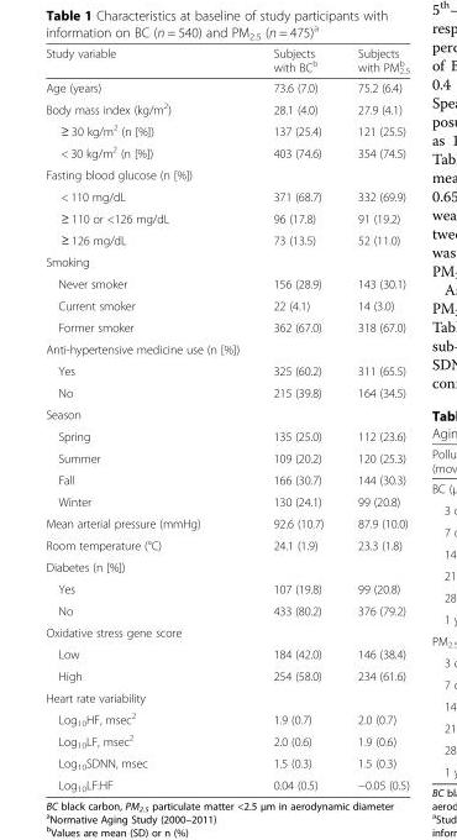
<table><thead><tr><td>Study variable</td><td>Subjects with BC<sup>b</sup></td><td>Subjects with PM<sub>2.5</sub> <sup>b</sup></td></tr></thead><tbody><tr><td>Age (years)</td><td>73.6 (7.0)</td><td>75.2 (6.4)</td></tr><tr><td>Body mass index (kg/m<sup>2</sup>)</td><td>28.1 (4.0)</td><td>27.9 (4.1)</td></tr><tr><td>≥ 30 kg/m<sup>2</sup> (n [%])</td><td>137 (25.4)</td><td>121 (25.5)</td></tr><tr><td>&lt; 30 kg/m<sup>2</sup> (n [%])</td><td>403 (74.6)</td><td>354 (74.5)</td></tr><tr><td colspan="3">Fasting blood glucose (n [%])</td></tr><tr><td>&lt; 110 mg/dL</td><td>371 (68.7)</td><td>332 (69.9)</td></tr><tr><td>≥ 110 or &lt;126 mg/dL</td><td>96 (17.8)</td><td>91 (19.2)</td></tr><tr><td>≥ 126 mg/dL</td><td>73 (13.5)</td><td>52 (11.0)</td></tr><tr><td colspan="3">Smoking</td></tr><tr><td>Never smoker</td><td>156 (28.9)</td><td>143 (30.1)</td></tr><tr><td>Current smoker</td><td>22 (4.1)</td><td>14 (3.0)</td></tr><tr><td>Former smoker</td><td>362 (67.0)</td><td>318 (67.0)</td></tr><tr><td colspan="3">Anti-hypertensive medicine use (n [%])</td></tr><tr><td>Yes</td><td>325 (60.2)</td><td>311 (65.5)</td></tr><tr><td>No</td><td>215 (39.8)</td><td>164 (34.5)</td></tr><tr><td colspan="3">Season</td></tr><tr><td>Spring</td><td>135 (25.0)</td><td>112 (23.6)</td></tr><tr><td>Summer</td><td>109 (20.2)</td><td>120 (25.3)</td></tr><tr><td>Fall</td><td>166 (30.7)</td><td>144 (30.3)</td></tr><tr><td>Winter</td><td>130 (24.1)</td><td>99 (20.8)</td></tr><tr><td>Mean arterial pressure (mmHg)</td><td>92.6 (10.7)</td><td>87.9 (10.0)</td></tr><tr><td>Room temperature (°C)</td><td>24.1 (1.9)</td><td>23.3 (1.8)</td></tr><tr><td colspan="3">Diabetes (n [%])</td></tr><tr><td>Yes</td><td>107 (19.8)</td><td>99 (20.8)</td></tr><tr><td>No</td><td>433 (80.2)</td><td>376 (79.2)</td></tr><tr><td colspan="3">Oxidative stress gene score</td></tr><tr><td>Low</td><td>184 (42.0)</td><td>146 (38.4)</td></tr><tr><td>High</td><td>254 (58.0)</td><td>234 (61.6)</td></tr><tr><td colspan="3">Heart rate variability</td></tr><tr><td>Log<sub>10</sub>HF, msec<sup>2</sup></td><td>1.9 (0.7)</td><td>2.0 (0.7)</td></tr><tr><td>Log<sub>10</sub>LF, msec<sup>2</sup></td><td>2.0 (0.6)</td><td>1.9 (0.6)</td></tr><tr><td>Log<sub>10</sub>SDNN, msec</td><td>1.5 (0.3)</td><td>1.5 (0.3)</td></tr><tr><td>Log<sub>10</sub>LF:HF</td><td>0.04 (0.5)</td><td>−0.05 (0.5)</td></tr></tbody></table>